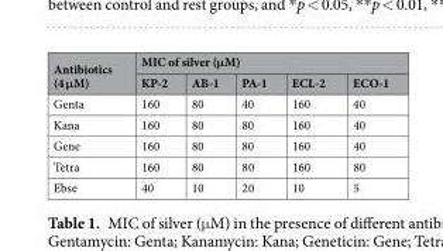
<table><thead><tr><td rowspan="2">Antibiotics (4 μM)</td><td colspan="5">MIC of silver (μM)</td></tr><tr><td>KP-2</td><td>AB-1</td><td>PA-1</td><td>ECL-2</td><td>ECO-1</td></tr></thead><tbody><tr><td>Genta</td><td>160</td><td>80</td><td>40</td><td>160</td><td>40</td></tr><tr><td>Kana</td><td>160</td><td>80</td><td>80</td><td>160</td><td>40</td></tr><tr><td>Gene</td><td>160</td><td>80</td><td>80</td><td>160</td><td>40</td></tr><tr><td>Tetra</td><td>160</td><td>80</td><td>80</td><td>160</td><td>80</td></tr><tr><td>Ebse</td><td>40</td><td>10</td><td>20</td><td>10</td><td>5</td></tr></tbody></table>